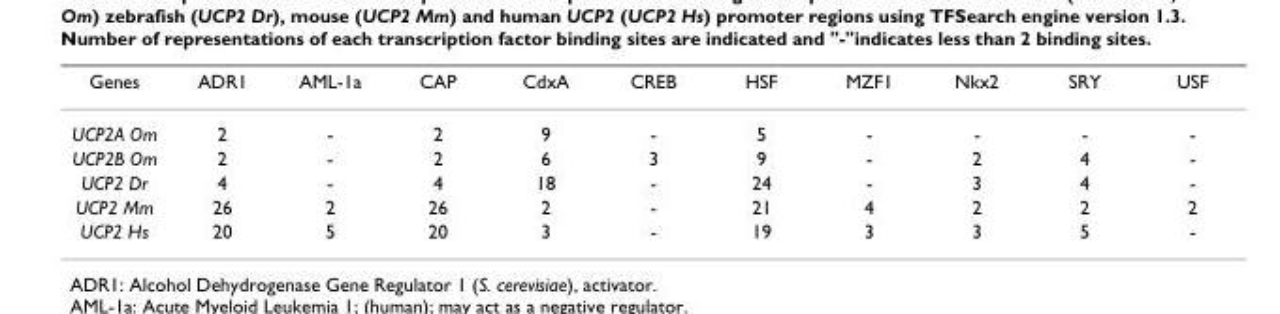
<table><thead><tr><td>Genes</td><td>ADR1</td><td>AML-1a</td><td>CAP</td><td>CdxA</td><td>CREB</td><td>HSF</td><td>MZF1</td><td>Nkx2</td><td>SRY</td><td>USF</td></tr></thead><tbody><tr><td>UCP2A Om</td><td>2</td><td>-</td><td>2</td><td>9</td><td>-</td><td>5</td><td>-</td><td>-</td><td>-</td><td>-</td></tr><tr><td>UCP2B Om</td><td>2</td><td>-</td><td>2</td><td>6</td><td>3</td><td>9</td><td>-</td><td>2</td><td>4</td><td>-</td></tr><tr><td>UCP2 Dr</td><td>4</td><td>-</td><td>4</td><td>18</td><td>-</td><td>24</td><td>-</td><td>3</td><td>4</td><td>-</td></tr><tr><td>UCP2 Mm</td><td>26</td><td>2</td><td>26</td><td>2</td><td>-</td><td>21</td><td>4</td><td>2</td><td>2</td><td>2</td></tr><tr><td>UCP2 Hs</td><td>20</td><td>5</td><td>20</td><td>3</td><td>-</td><td>19</td><td>3</td><td>3</td><td>5</td><td>-</td></tr></tbody></table>